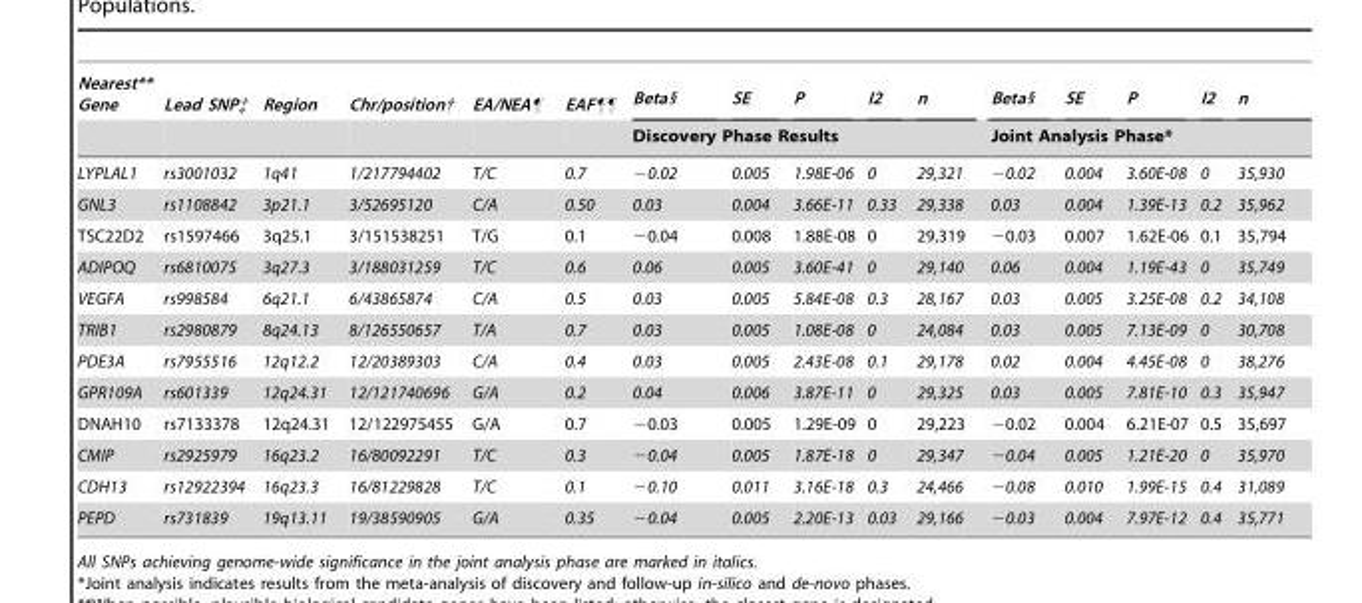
<table><thead><tr><td rowspan="2">Nearest** Gene</td><td rowspan="2">Lead SNP‡</td><td rowspan="2">Region</td><td rowspan="2">Chr/position†</td><td rowspan="2">EA/NEA¶</td><td rowspan="2">EAF¶¶</td><td>Beta§</td><td>SE</td><td>P</td><td>I2</td><td>n</td><td>Beta§</td><td>SE</td><td>P</td><td>I2</td><td>n</td></tr><tr><td colspan="5">Discovery Phase Results</td><td colspan="5">Joint Analysis Phase*</td></tr></thead><tbody><tr><td>LYPLAL1</td><td>rs3001032</td><td>1q41</td><td>1/217794402</td><td>T/C</td><td>0.7</td><td>−0.02</td><td>0.005</td><td>1.98E-06</td><td>0</td><td>29,321</td><td>−0.02</td><td>0.004</td><td>3.60E-08</td><td>0</td><td>35,930</td></tr><tr><td>GNL3</td><td>rs1108842</td><td>3p21.1</td><td>3/52695120</td><td>C/A</td><td>0.50</td><td>0.03</td><td>0.004</td><td>3.66E-11</td><td>0.33</td><td>29,338</td><td>0.03</td><td>0.004</td><td>1.39E-13</td><td>0.2</td><td>35,962</td></tr><tr><td>TSC22D2</td><td>rs1597466</td><td>3q25.1</td><td>3/151538251</td><td>T/G</td><td>0.1</td><td>−0.04</td><td>0.008</td><td>1.88E-08</td><td>0</td><td>29,319</td><td>−0.03</td><td>0.007</td><td>1.62E-06</td><td>0.1</td><td>35,794</td></tr><tr><td>ADIPOQ</td><td>rs6810075</td><td>3q27.3</td><td>3/188031259</td><td>T/C</td><td>0.6</td><td>0.06</td><td>0.005</td><td>3.60E-41</td><td>0</td><td>29,140</td><td>0.06</td><td>0.004</td><td>1.19E-43</td><td>0</td><td>35,749</td></tr><tr><td>VEGFA</td><td>rs998584</td><td>6q21.1</td><td>6/43865874</td><td>C/A</td><td>0.5</td><td>0.03</td><td>0.005</td><td>5.84E-08</td><td>0.3</td><td>28,167</td><td>0.03</td><td>0.005</td><td>3.25E-08</td><td>0.2</td><td>34,108</td></tr><tr><td>TRIB1</td><td>rs2980879</td><td>8q24.13</td><td>8/126550657</td><td>T/A</td><td>0.7</td><td>0.03</td><td>0.005</td><td>1.08E-08</td><td>0</td><td>24,084</td><td>0.03</td><td>0.005</td><td>7.13E-09</td><td>0</td><td>30,708</td></tr><tr><td>PDE3A</td><td>rs7955516</td><td>12q12.2</td><td>12/20389303</td><td>C/A</td><td>0.4</td><td>0.03</td><td>0.005</td><td>2.43E-08</td><td>0.1</td><td>29,178</td><td>0.02</td><td>0.004</td><td>4.45E-08</td><td>0</td><td>38,276</td></tr><tr><td>GPR109A</td><td>rs601339</td><td>12q24.31</td><td>12/121740696</td><td>G/A</td><td>0.2</td><td>0.04</td><td>0.006</td><td>3.87E-11</td><td>0</td><td>29,325</td><td>0.03</td><td>0.005</td><td>7.81E-10</td><td>0.3</td><td>35,947</td></tr><tr><td>DNAH10</td><td>rs7133378</td><td>12q24.31</td><td>12/122975455</td><td>G/A</td><td>0.7</td><td>−0.03</td><td>0.005</td><td>1.29E-09</td><td>0</td><td>29,223</td><td>−0.02</td><td>0.004</td><td>6.21E-07</td><td>0.5</td><td>35,697</td></tr><tr><td>CMIP</td><td>rs2925979</td><td>16q23.2</td><td>16/80092291</td><td>T/C</td><td>0.3</td><td>−0.04</td><td>0.005</td><td>1.87E-18</td><td>0</td><td>29,347</td><td>−0.04</td><td>0.005</td><td>1.21E-20</td><td>0</td><td>35,970</td></tr><tr><td>CDH13</td><td>rs12922394</td><td>16q23.3</td><td>16/81229828</td><td>T/C</td><td>0.1</td><td>−0.10</td><td>0.011</td><td>3.16E-18</td><td>0.3</td><td>24,466</td><td>−0.08</td><td>0.010</td><td>1.99E-15</td><td>0.4</td><td>31,089</td></tr><tr><td>PEPD</td><td>rs731839</td><td>19q13.11</td><td>19/38590905</td><td>G/A</td><td>0.35</td><td>−0.04</td><td>0.005</td><td>2.20E-13</td><td>0.03</td><td>29,166</td><td>−0.03</td><td>0.004</td><td>7.97E-12</td><td>0.4</td><td>35,771</td></tr></tbody></table>